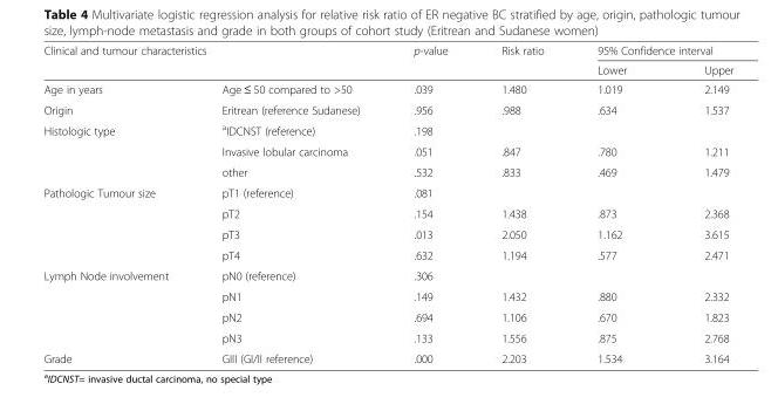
<table><thead><tr><td rowspan="2" colspan="2">Clinical and tumour characteristics</td><td rowspan="3">p-value .039</td><td rowspan="3">Risk ratio 1.480</td><td colspan="2">95% Confidence interval</td></tr><tr><td rowspan="2">Lower 1.019</td><td rowspan="2">Upper 2.149</td></tr><tr><td>Age in years</td><td>Age ≤ 50 compared to &gt;50</td></tr></thead><tbody><tr><td>Origin</td><td>Eritrean (reference Sudanese)</td><td>.956</td><td>.988</td><td>.634</td><td>1.537</td></tr><tr><td rowspan="3">Histologic type</td><td><sup>a</sup>IDCNST (reference)</td><td>.198</td><td></td><td></td><td></td></tr><tr><td>Invasive lobular carcinoma</td><td>.051</td><td>.847</td><td>.780</td><td>1.211</td></tr><tr><td>other</td><td>.532</td><td>.833</td><td>.469</td><td>1.479</td></tr><tr><td rowspan="4">Pathologic Tumour size</td><td>pT1 (reference)</td><td>.081</td><td></td><td></td><td></td></tr><tr><td>pT2</td><td>.154</td><td>1.438</td><td>.873</td><td>2.368</td></tr><tr><td>pT3</td><td>.013</td><td>2.050</td><td>1.162</td><td>3.615</td></tr><tr><td>pT4</td><td>.632</td><td>1.194</td><td>.577</td><td>2.471</td></tr><tr><td rowspan="4">Lymph Node involvement</td><td>pN0 (reference)</td><td>.306</td><td></td><td></td><td></td></tr><tr><td>pN1</td><td>.149</td><td>1.432</td><td>.880</td><td>2.332</td></tr><tr><td>pN2</td><td>.694</td><td>1.106</td><td>.670</td><td>1.823</td></tr><tr><td>pN3</td><td>.133</td><td>1.556</td><td>.875</td><td>2.768</td></tr><tr><td>Grade</td><td>GIII (GI/II reference)</td><td>.000</td><td>2.203</td><td>1.534</td><td>3.164</td></tr></tbody></table>